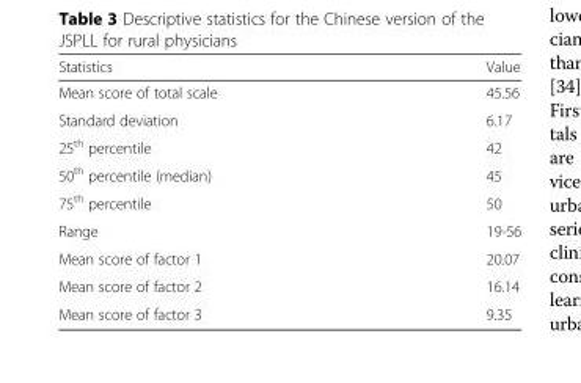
<table><thead><tr><td>Statistics</td><td>Value</td></tr></thead><tbody><tr><td>Mean score of total scale</td><td>45.56</td></tr><tr><td>Standard deviation</td><td>6.17</td></tr><tr><td>25<sup>th</sup> percentile</td><td>42</td></tr><tr><td>50<sup>th</sup> percentile (median)</td><td>45</td></tr><tr><td>75<sup>th</sup> percentile</td><td>50</td></tr><tr><td>Range</td><td>19-56</td></tr><tr><td>Mean score of factor 1</td><td>20.07</td></tr><tr><td>Mean score of factor 2</td><td>16.14</td></tr><tr><td>Mean score of factor 3</td><td>9.35</td></tr></tbody></table>